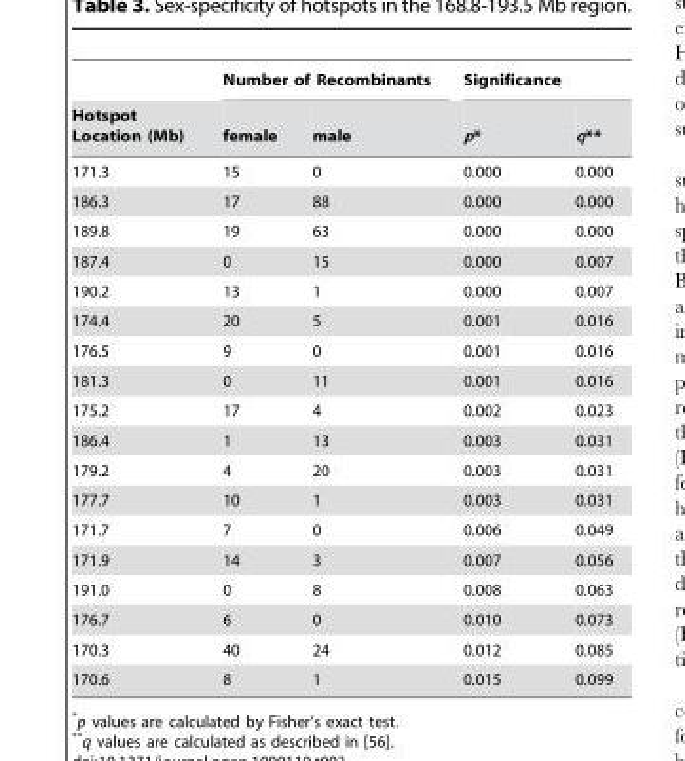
<table><thead><tr><td rowspan="2">Hotspot Location (Mb)</td><td colspan="2">Number of Recombinants</td><td colspan="2">Significance</td></tr><tr><td>female</td><td>male</td><td>p*</td><td>q**</td></tr></thead><tbody><tr><td>171.3</td><td>15</td><td>0</td><td>0.000</td><td>0.000</td></tr><tr><td>186.3</td><td>17</td><td>88</td><td>0.000</td><td>0.000</td></tr><tr><td>189.8</td><td>19</td><td>63</td><td>0.000</td><td>0.000</td></tr><tr><td>187.4</td><td>0</td><td>15</td><td>0.000</td><td>0.007</td></tr><tr><td>190.2</td><td>13</td><td>1</td><td>0.000</td><td>0.007</td></tr><tr><td>174.4</td><td>20</td><td>5</td><td>0.001</td><td>0.016</td></tr><tr><td>176.5</td><td>9</td><td>0</td><td>0.001</td><td>0.016</td></tr><tr><td>181.3</td><td>0</td><td>11</td><td>0.001</td><td>0.016</td></tr><tr><td>175.2</td><td>17</td><td>4</td><td>0.002</td><td>0.023</td></tr><tr><td>186.4</td><td>1</td><td>13</td><td>0.003</td><td>0.031</td></tr><tr><td>179.2</td><td>4</td><td>20</td><td>0.003</td><td>0.031</td></tr><tr><td>177.7</td><td>10</td><td>1</td><td>0.003</td><td>0.031</td></tr><tr><td>171.7</td><td>7</td><td>0</td><td>0.006</td><td>0.049</td></tr><tr><td>171.9</td><td>14</td><td>3</td><td>0.007</td><td>0.056</td></tr><tr><td>191.0</td><td>0</td><td>8</td><td>0.008</td><td>0.063</td></tr><tr><td>176.7</td><td>6</td><td>0</td><td>0.010</td><td>0.073</td></tr><tr><td>170.3</td><td>40</td><td>24</td><td>0.012</td><td>0.085</td></tr><tr><td>170.6</td><td>8</td><td>1</td><td>0.015</td><td>0.099</td></tr></tbody></table>